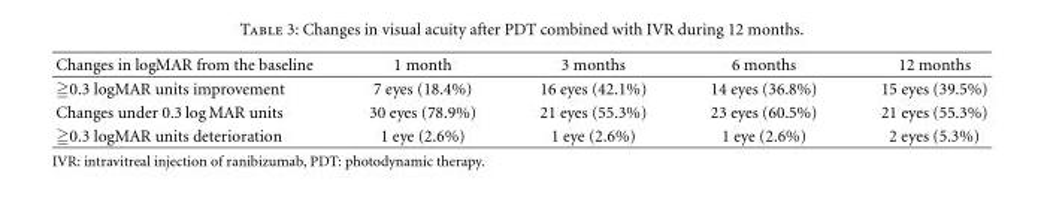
<table><thead><tr><td>Changes in logMAR from the baseline</td><td>1 month</td><td>3 months</td><td>6 months</td><td>12 months</td></tr></thead><tbody><tr><td>≧0.3 logMAR units improvement</td><td>7 eyes (18.4%)</td><td>16 eyes (42.1%)</td><td>14 eyes (36.8%)</td><td>15 eyes (39.5%)</td></tr><tr><td>Changes under 0.3 log MAR units</td><td>30 eyes (78.9%)</td><td>21 eyes (55.3%)</td><td>23 eyes (60.5%)</td><td>21 eyes (55.3%)</td></tr><tr><td>≧0.3 logMAR units deterioration</td><td>1 eye (2.6%)</td><td>1 eye (2.6%)</td><td>1 eye (2.6%)</td><td>2 eyes (5.3%)</td></tr></tbody></table>